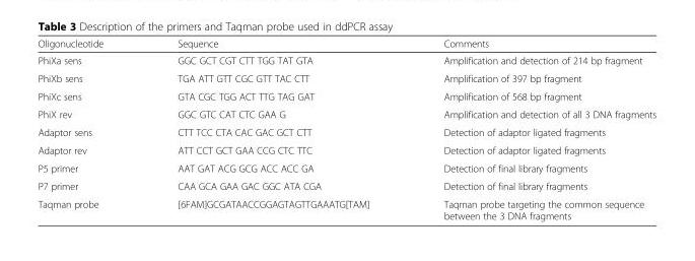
<table><thead><tr><td>Oligonucleotide</td><td>Sequence</td><td>Comments</td></tr></thead><tbody><tr><td>PhiXa sens</td><td>GGC GCT CGT CTT TGG TAT GTA</td><td>Amplification and detection of 214 bp fragment</td></tr><tr><td>PhiXb sens</td><td>TGA ATT GTT CGC GTT TAC CTT</td><td>Amplification of 397 bp fragment</td></tr><tr><td>PhiXc sens</td><td>GTA CGC TGG ACT TTG TAG GAT</td><td>Amplification of 568 bp fragment</td></tr><tr><td>PhiX rev</td><td>GGC GTC CAT CTC GAA G</td><td>Amplification and detection of all 3 DNA fragments</td></tr><tr><td>Adaptor sens</td><td>CTT TCC CTA CAC GAC GCT CTT</td><td>Detection of adaptor ligated fragments</td></tr><tr><td>Adaptor rev</td><td>ATT CCT GCT GAA CCG CTC TTC</td><td>Detection of adaptor ligated fragments</td></tr><tr><td>P5 primer</td><td>AAT GAT ACG GCG ACC ACC GA</td><td>Detection of final library fragments</td></tr><tr><td>P7 primer</td><td>CAA GCA GAA GAC GGC ATA CGA</td><td>Detection of final library fragments</td></tr><tr><td>Taqman probe</td><td>[6FAM]GCGATAACCGGAGTAGTTGAAATG[TAM]</td><td>Taqman probe targeting the common sequence between the 3 DNA fragments</td></tr></tbody></table>